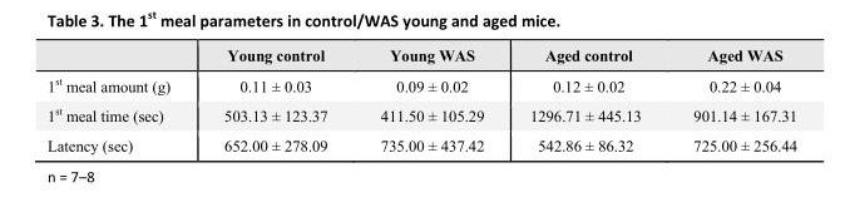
<table><thead><tr><td></td><td>Young control</td><td>Young WAS</td><td>Aged control</td><td>Aged WAS</td></tr></thead><tbody><tr><td>1<sup>st</sup> meal amount (g)</td><td>0.11 ± 0.03</td><td>0.09 ± 0.02</td><td>0.12 ± 0.02</td><td>0.22 ± 0.04</td></tr><tr><td>1<sup>st</sup> meal time (sec)</td><td>503.13 ± 123.37</td><td>411.50 ± 105.29</td><td>1296.71 ± 445.13</td><td>901.14 ± 167.31</td></tr><tr><td>Latency (sec)</td><td>652.00 ± 278.09</td><td>735.00 ± 437.42</td><td>542.86 ± 86.32</td><td>725.00 ± 256.44</td></tr></tbody></table>